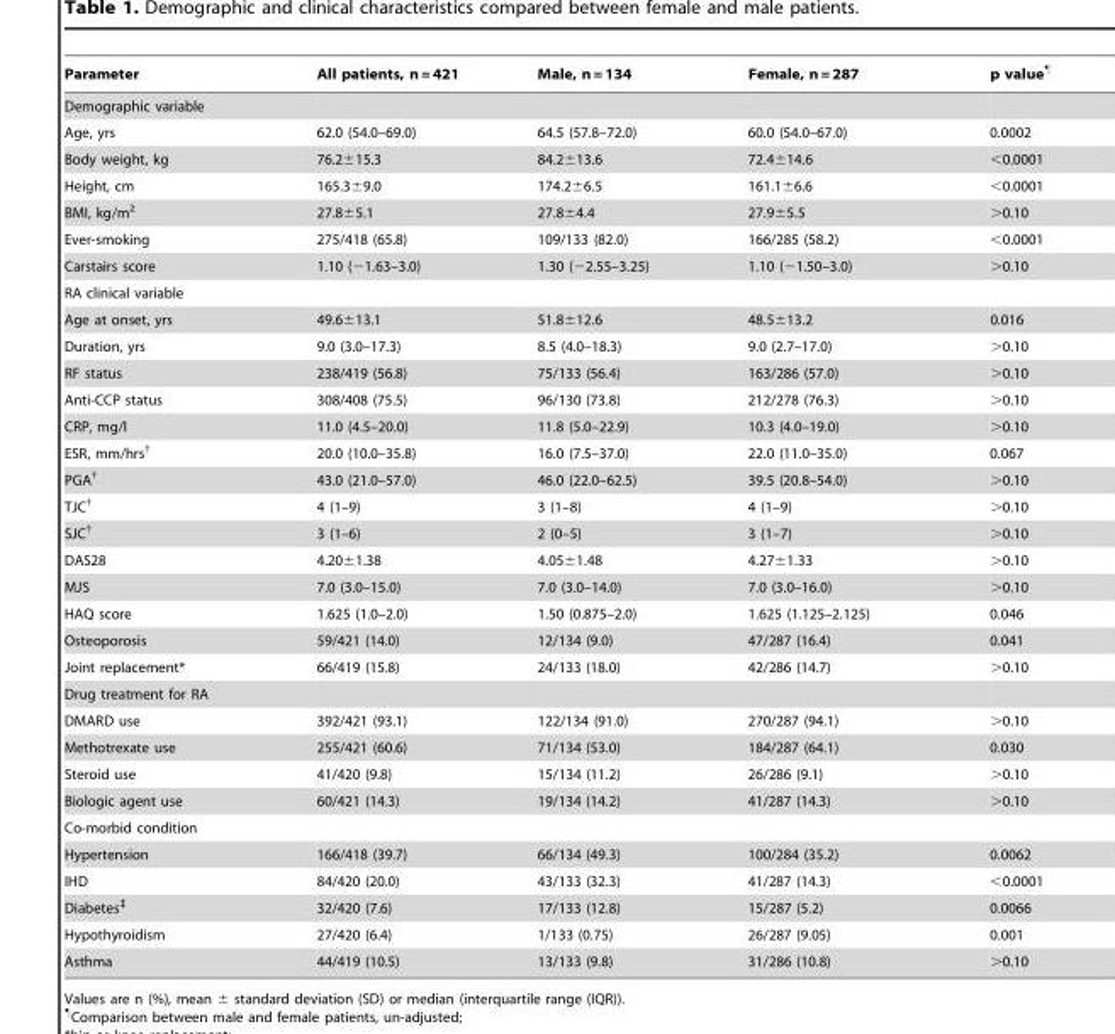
<table><thead><tr><td>Parameter</td><td>All patients, n = 421</td><td>Male, n = 134</td><td>Female, n = 287</td><td>p value¶</td></tr></thead><tbody><tr><td colspan="5">Demographic variable</td></tr><tr><td>Age, yrs</td><td>62.0 (54.0–69.0)</td><td>64.5 (57.8–72.0)</td><td>60.0 (54.0–67.0)</td><td>0.0002</td></tr><tr><td>Body weight, kg</td><td>76.2±15.3</td><td>84.2±13.6</td><td>72.4±14.6</td><td>&lt;0.0001</td></tr><tr><td>Height, cm</td><td>165.3±9.0</td><td>174.2±6.5</td><td>161.1±6.6</td><td>&lt;0.0001</td></tr><tr><td>BMI, kg/m<sup>2</sup></td><td>27.8±5.1</td><td>27.8±4.4</td><td>27.9±5.5</td><td>&gt;0.10</td></tr><tr><td>Ever-smoking</td><td>275/418 (65.8)</td><td>109/133 (82.0)</td><td>166/285 (58.2)</td><td>&lt;0.0001</td></tr><tr><td>Carstairs score</td><td>1.10 (−1.63–3.0)</td><td>1.30 (−2.55–3.25)</td><td>1.10 (−1.50–3.0)</td><td>&gt;0.10</td></tr><tr><td colspan="5">RA clinical variable</td></tr><tr><td>Age at onset, yrs</td><td>49.6±13.1</td><td>51.8±12.6</td><td>48.5±13.2</td><td>0.016</td></tr><tr><td>Duration, yrs</td><td>9.0 (3.0–17.3)</td><td>8.5 (4.0–18.3)</td><td>9.0 (2.7–17.0)</td><td>&gt;0.10</td></tr><tr><td>RF status</td><td>238/419 (56.8)</td><td>75/133 (56.4)</td><td>163/286 (57.0)</td><td>&gt;0.10</td></tr><tr><td>Anti-CCP status</td><td>308/408 (75.5)</td><td>96/130 (73.8)</td><td>212/278 (76.3)</td><td>&gt;0.10</td></tr><tr><td>CRP, mg/l</td><td>11.0 (4.5–20.0)</td><td>11.8 (5.0–22.9)</td><td>10.3 (4.0–19.0)</td><td>&gt;0.10</td></tr><tr><td>ESR, mm/hrs†</td><td>20.0 (10.0–35.8)</td><td>16.0 (7.5–37.0)</td><td>22.0 (11.0–35.0)</td><td>0.067</td></tr><tr><td>PGA†</td><td>43.0 (21.0–57.0)</td><td>46.0 (22.0–62.5)</td><td>39.5 (20.8–54.0)</td><td>&gt;0.10</td></tr><tr><td>TJC†</td><td>4 (1–9)</td><td>3 (1–8)</td><td>4 (1–9)</td><td>&gt;0.10</td></tr><tr><td>SJC†</td><td>3 (1–6)</td><td>2 (0–5)</td><td>3 (1–7)</td><td>&gt;0.10</td></tr><tr><td>DAS28</td><td>4.20±1.38</td><td>4.05±1.48</td><td>4.27±1.33</td><td>&gt;0.10</td></tr><tr><td>MJS</td><td>7.0 (3.0–15.0)</td><td>7.0 (3.0–14.0)</td><td>7.0 (3.0–16.0)</td><td>&gt;0.10</td></tr><tr><td>HAQ score</td><td>1.625 (1.0–2.0)</td><td>1.50 (0.875–2.0)</td><td>1.625 (1.125–2.125)</td><td>0.046</td></tr><tr><td>Osteoporosis</td><td>59/421 (14.0)</td><td>12/134 (9.0)</td><td>47/287 (16.4)</td><td>0.041</td></tr><tr><td>Joint replacement*</td><td>66/419 (15.8)</td><td>24/133 (18.0)</td><td>42/286 (14.7)</td><td>&gt;0.10</td></tr><tr><td colspan="5">Drug treatment for RA</td></tr><tr><td>DMARD use</td><td>392/421 (93.1)</td><td>122/134 (91.0)</td><td>270/287 (94.1)</td><td>&gt;0.10</td></tr><tr><td>Methotrexate use</td><td>255/421 (60.6)</td><td>71/134 (53.0)</td><td>184/287 (64.1)</td><td>0.030</td></tr><tr><td>Steroid use</td><td>41/420 (9.8)</td><td>15/134 (11.2)</td><td>26/286 (9.1)</td><td>&gt;0.10</td></tr><tr><td>Biologic agent use</td><td>60/421 (14.3)</td><td>19/134 (14.2)</td><td>41/287 (14.3)</td><td>&gt;0.10</td></tr><tr><td colspan="5">Co-morbid condition</td></tr><tr><td>Hypertension</td><td>166/418 (39.7)</td><td>66/134 (49.3)</td><td>100/284 (35.2)</td><td>0.0062</td></tr><tr><td>IHD</td><td>84/420 (20.0)</td><td>43/133 (32.3)</td><td>41/287 (14.3)</td><td>&lt;0.0001</td></tr><tr><td>Diabetes‡</td><td>32/420 (7.6)</td><td>17/133 (12.8)</td><td>15/287 (5.2)</td><td>0.0066</td></tr><tr><td>Hypothyroidism</td><td>27/420 (6.4)</td><td>1/133 (0.75)</td><td>26/287 (9.05)</td><td>0.001</td></tr><tr><td>Asthma</td><td>44/419 (10.5)</td><td>13/133 (9.8)</td><td>31/286 (10.8)</td><td>&gt;0.10</td></tr></tbody></table>